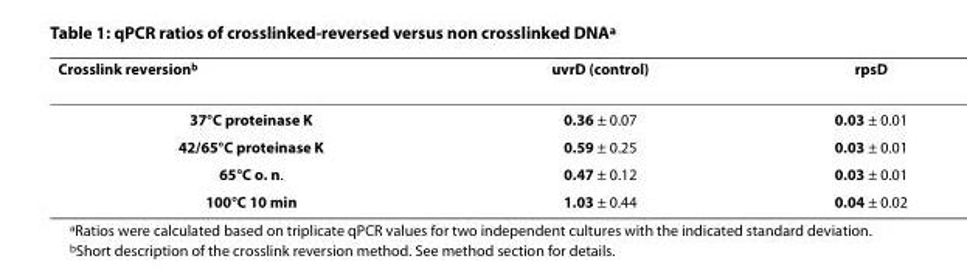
<table><thead><tr><td>Crosslink reversion<sup>b</sup></td><td>uvrD (control)</td><td>rpsD</td></tr></thead><tbody><tr><td>37°C proteinase K</td><td>0.36 ± 0.07</td><td>0.03 ± 0.01</td></tr><tr><td>42/65°C proteinase K</td><td>0.59 ± 0.25</td><td>0.03 ± 0.01</td></tr><tr><td>65°C o. n.</td><td>0.47 ± 0.12</td><td>0.03 ± 0.01</td></tr><tr><td>100°C 10 min</td><td>1.03 ± 0.44</td><td>0.04 ± 0.02</td></tr></tbody></table>